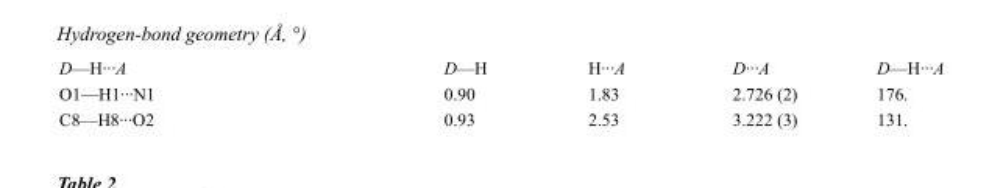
<table><tbody><tr><td>D—H···A</td><td>D—H</td><td>H···A</td><td>D···A</td><td>D—H···A</td></tr><tr><td>O1—H1···N1</td><td>0.90</td><td>1.83</td><td>2.726 (2)</td><td>176.</td></tr><tr><td>C8—H8···O2</td><td>0.93</td><td>2.53</td><td>3.222 (3)</td><td>131.</td></tr></tbody></table>